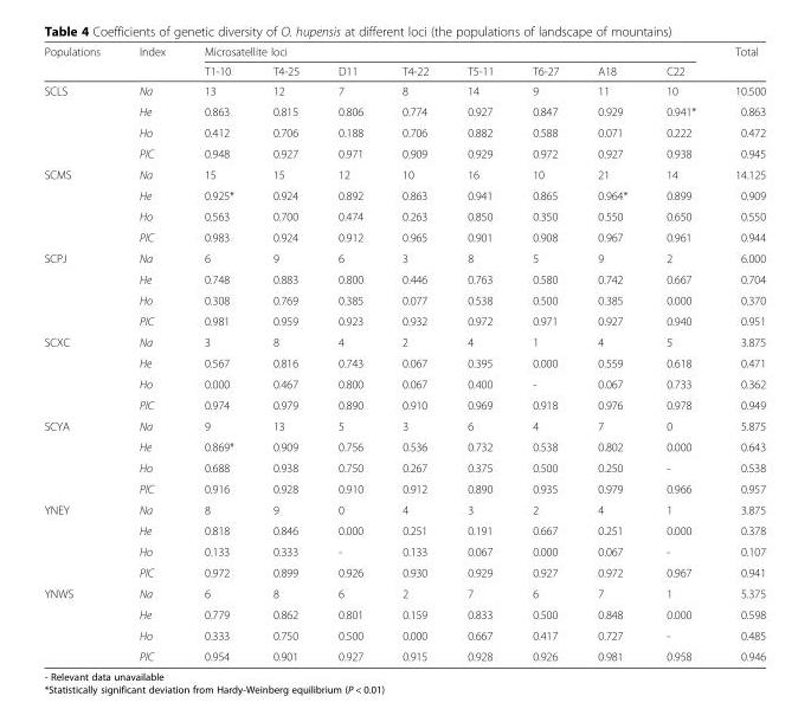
<table><thead><tr><td rowspan="2">Populations</td><td rowspan="2">Index</td><td colspan="8">Microsatellite loci</td><td rowspan="2">Total</td></tr><tr><td>T1-10</td><td>T4-25</td><td>D11</td><td>T4-22</td><td>T5-11</td><td>T6-27</td><td>A18</td><td>C22</td></tr></thead><tbody><tr><td rowspan="4">SCLS</td><td>Na</td><td>13</td><td>12</td><td>7</td><td>8</td><td>14</td><td>9</td><td>11</td><td>10</td><td>10.500</td></tr><tr><td>He</td><td>0.863</td><td>0.815</td><td>0.806</td><td>0.774</td><td>0.927</td><td>0.847</td><td>0.929</td><td>0.941*</td><td>0.863</td></tr><tr><td>Ho</td><td>0.412</td><td>0.706</td><td>0.188</td><td>0.706</td><td>0.882</td><td>0.588</td><td>0.071</td><td>0.222</td><td>0.472</td></tr><tr><td>PIC</td><td>0.948</td><td>0.927</td><td>0.971</td><td>0.909</td><td>0.929</td><td>0.972</td><td>0.927</td><td>0.938</td><td>0.945</td></tr><tr><td rowspan="4">SCMS</td><td>Na</td><td>15</td><td>15</td><td>12</td><td>10</td><td>16</td><td>10</td><td>21</td><td>14</td><td>14.125</td></tr><tr><td>He</td><td>0.925*</td><td>0.924</td><td>0.892</td><td>0.863</td><td>0.941</td><td>0.865</td><td>0.964*</td><td>0.899</td><td>0.909</td></tr><tr><td>Ho</td><td>0.563</td><td>0.700</td><td>0.474</td><td>0.263</td><td>0.850</td><td>0.350</td><td>0.550</td><td>0.650</td><td>0.550</td></tr><tr><td>PIC</td><td>0.983</td><td>0.924</td><td>0.912</td><td>0.965</td><td>0.901</td><td>0.908</td><td>0.967</td><td>0.961</td><td>0.944</td></tr><tr><td rowspan="4">SCPJ</td><td>Na</td><td>6</td><td>9</td><td>6</td><td>3</td><td>8</td><td>5</td><td>9</td><td>2</td><td>6.000</td></tr><tr><td>He</td><td>0.748</td><td>0.883</td><td>0.800</td><td>0.446</td><td>0.763</td><td>0.580</td><td>0.742</td><td>0.667</td><td>0.704</td></tr><tr><td>Ho</td><td>0.308</td><td>0.769</td><td>0.385</td><td>0.077</td><td>0.538</td><td>0.500</td><td>0.385</td><td>0.000</td><td>0.370</td></tr><tr><td>PIC</td><td>0.981</td><td>0.959</td><td>0.923</td><td>0.932</td><td>0.972</td><td>0.971</td><td>0.927</td><td>0.940</td><td>0.951</td></tr><tr><td rowspan="4">SCXC</td><td>Na</td><td>3</td><td>8</td><td>4</td><td>2</td><td>4</td><td>1</td><td>4</td><td>5</td><td>3.875</td></tr><tr><td>He</td><td>0.567</td><td>0.816</td><td>0.743</td><td>0.067</td><td>0.395</td><td>0.000</td><td>0.559</td><td>0.618</td><td>0.471</td></tr><tr><td>Ho</td><td>0.000</td><td>0.467</td><td>0.800</td><td>0.067</td><td>0.400</td><td>-</td><td>0.067</td><td>0.733</td><td>0.362</td></tr><tr><td>PIC</td><td>0.974</td><td>0.979</td><td>0.890</td><td>0.910</td><td>0.969</td><td>0.918</td><td>0.976</td><td>0.978</td><td>0.949</td></tr><tr><td rowspan="4">SCYA</td><td>Na</td><td>9</td><td>13</td><td>5</td><td>3</td><td>6</td><td>4</td><td>7</td><td>0</td><td>5.875</td></tr><tr><td>He</td><td>0.869*</td><td>0.909</td><td>0.756</td><td>0.536</td><td>0.732</td><td>0.538</td><td>0.802</td><td>0.000</td><td>0.643</td></tr><tr><td>Ho</td><td>0.688</td><td>0.938</td><td>0.750</td><td>0.267</td><td>0.375</td><td>0.500</td><td>0.250</td><td>-</td><td>0.538</td></tr><tr><td>PIC</td><td>0.916</td><td>0.928</td><td>0.910</td><td>0.912</td><td>0.890</td><td>0.935</td><td>0.979</td><td>0.966</td><td>0.957</td></tr><tr><td rowspan="4">YNEY</td><td>Na</td><td>8</td><td>9</td><td>0</td><td>4</td><td>3</td><td>2</td><td>4</td><td>1</td><td>3.875</td></tr><tr><td>He</td><td>0.818</td><td>0.846</td><td>0.000</td><td>0.251</td><td>0.191</td><td>0.667</td><td>0.251</td><td>0.000</td><td>0.378</td></tr><tr><td>Ho</td><td>0.133</td><td>0.333</td><td>-</td><td>0.133</td><td>0.067</td><td>0.000</td><td>0.067</td><td>-</td><td>0.107</td></tr><tr><td>PIC</td><td>0.972</td><td>0.899</td><td>0.926</td><td>0.930</td><td>0.929</td><td>0.927</td><td>0.972</td><td>0.967</td><td>0.941</td></tr><tr><td rowspan="4">YNWS</td><td>Na</td><td>6</td><td>8</td><td>6</td><td>2</td><td>7</td><td>6</td><td>7</td><td>1</td><td>5.375</td></tr><tr><td>He</td><td>0.779</td><td>0.862</td><td>0.801</td><td>0.159</td><td>0.833</td><td>0.500</td><td>0.848</td><td>0.000</td><td>0.598</td></tr><tr><td>Ho</td><td>0.333</td><td>0.750</td><td>0.500</td><td>0.000</td><td>0.667</td><td>0.417</td><td>0.727</td><td>-</td><td>0.485</td></tr><tr><td>PIC</td><td>0.954</td><td>0.901</td><td>0.927</td><td>0.915</td><td>0.928</td><td>0.926</td><td>0.981</td><td>0.958</td><td>0.946</td></tr></tbody></table>